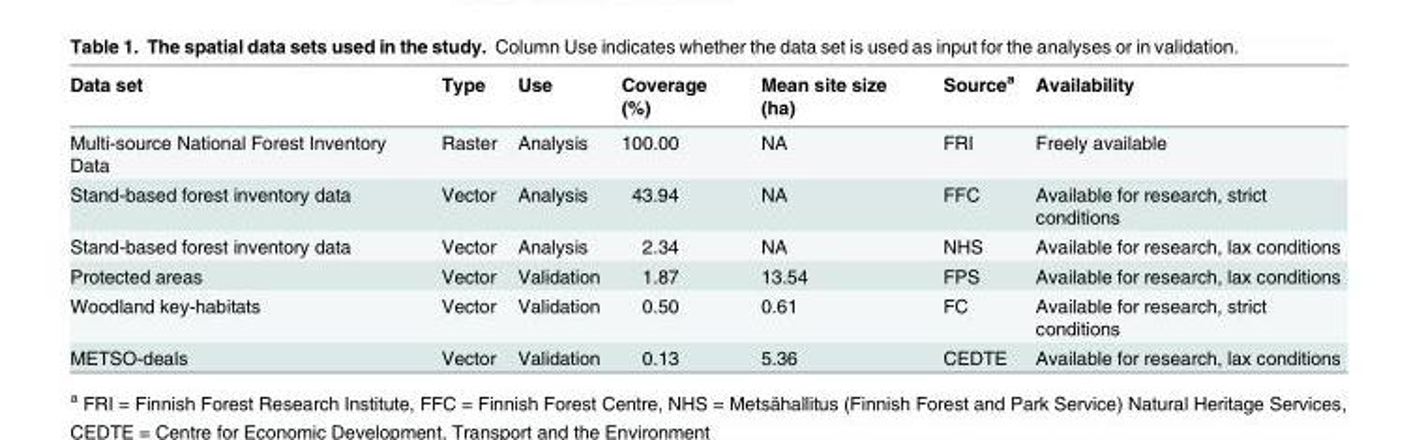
<table><thead><tr><td>Data set</td><td>Type</td><td>Use</td><td>Coverage (%)</td><td>Mean site size (ha)</td><td>Source<sup>a</sup></td><td>Availability</td></tr></thead><tbody><tr><td>Multi-source National Forest Inventory Data</td><td>Raster</td><td>Analysis</td><td>100.00</td><td>NA</td><td>FRI</td><td>Freely available</td></tr><tr><td>Stand-based forest inventory data</td><td>Vector</td><td>Analysis</td><td>43.94</td><td>NA</td><td>FFC</td><td>Available for research, strict conditions</td></tr><tr><td>Stand-based forest inventory data</td><td>Vector</td><td>Analysis</td><td>2.34</td><td>NA</td><td>NHS</td><td>Available for research, lax conditions</td></tr><tr><td>Protected areas</td><td>Vector</td><td>Validation</td><td>1.87</td><td>13.54</td><td>FPS</td><td>Available for research, lax conditions</td></tr><tr><td>Woodland key-habitats</td><td>Vector</td><td>Validation</td><td>0.50</td><td>0.61</td><td>FC</td><td>Available for research, strict conditions</td></tr><tr><td>METSO-deals</td><td>Vector</td><td>Validation</td><td>0.13</td><td>5.36</td><td>CEDTE</td><td>Available for research, lax conditions</td></tr></tbody></table>